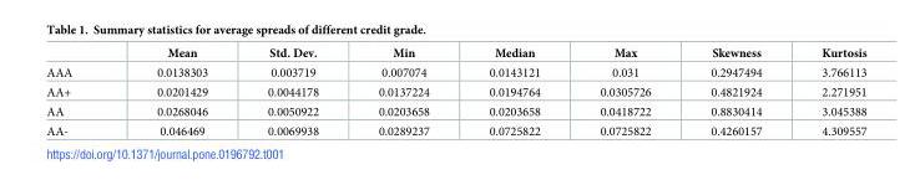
<table><thead><tr><td></td><td>Mean</td><td>Std. Dev.</td><td>Min</td><td>Median</td><td>Max</td><td>Skewness</td><td>Kurtosis</td></tr></thead><tbody><tr><td>AAA</td><td>0.0138303</td><td>0.003719</td><td>0.007074</td><td>0.0143121</td><td>0.031</td><td>0.2947494</td><td>3.766113</td></tr><tr><td>AA+</td><td>0.0201429</td><td>0.0044178</td><td>0.0137224</td><td>0.0194764</td><td>0.0305726</td><td>0.4821924</td><td>2.271951</td></tr><tr><td>AA</td><td>0.0268046</td><td>0.0050922</td><td>0.0203658</td><td>0.0203658</td><td>0.0418722</td><td>0.8830414</td><td>3.045388</td></tr><tr><td>AA-</td><td>0.046469</td><td>0.0069938</td><td>0.0289237</td><td>0.0725822</td><td>0.0725822</td><td>0.4260157</td><td>4.309557</td></tr></tbody></table>